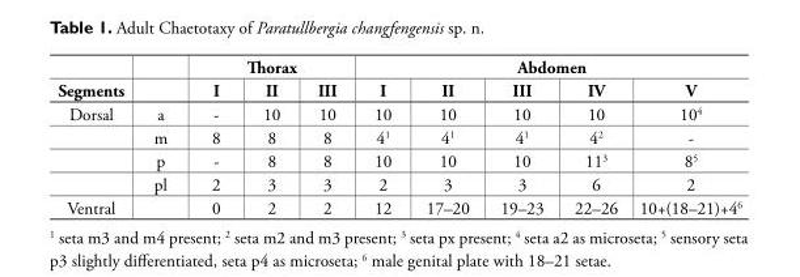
<table><thead><tr><td rowspan="2">Segments</td><td rowspan="2"></td><td colspan="3">Thorax</td><td colspan="5">Abdomen</td></tr><tr><td>I</td><td>II</td><td>III</td><td>I</td><td>II</td><td>III</td><td>IV</td><td>V</td></tr></thead><tbody><tr><td rowspan="4">Dorsal</td><td>a</td><td>-</td><td>10</td><td>10</td><td>10</td><td>10</td><td>10</td><td>10</td><td>10<sup>4</sup></td></tr><tr><td>m</td><td>8</td><td>8</td><td>8</td><td>4<sup>1</sup></td><td>4<sup>1</sup></td><td>4<sup>1</sup></td><td>4<sup>2</sup></td><td>-</td></tr><tr><td>p</td><td>-</td><td>8</td><td>8</td><td>10</td><td>10</td><td>10</td><td>11<sup>3</sup></td><td>8<sup>5</sup></td></tr><tr><td>pl</td><td>2</td><td>3</td><td>3</td><td>2</td><td>3</td><td>3</td><td>6</td><td>2</td></tr><tr><td>Ventral</td><td></td><td>0</td><td>2</td><td>2</td><td>12</td><td>17–20</td><td>19–23</td><td>22–26</td><td>10+(18–21)+4<sup>6</sup></td></tr></tbody></table>